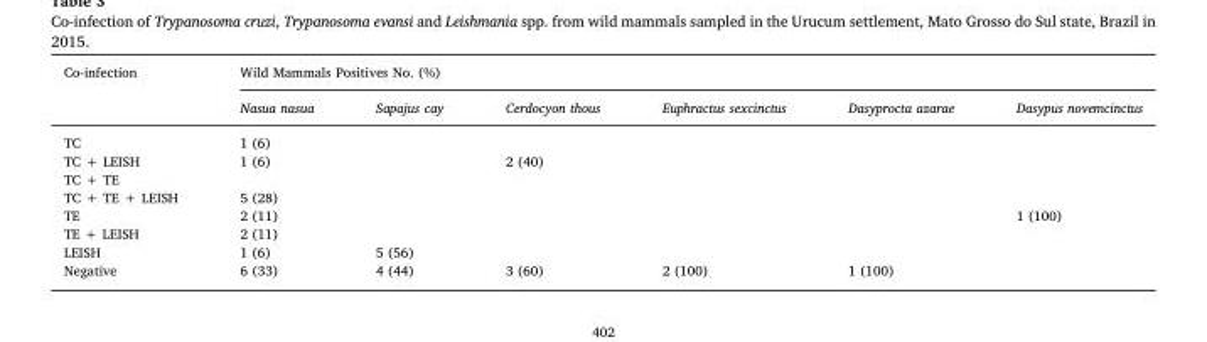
<table><thead><tr><td rowspan="2">Co-infection</td><td colspan="6">Wild Mammals Positives No. (%)</td></tr><tr><td>Nasua nasua</td><td>Sapajus cay</td><td>Cerdocyon thous</td><td>Euphractus sexcinctus</td><td>Dasyprocta azarae</td><td>Dasypus novemcinctus</td></tr></thead><tbody><tr><td>TC</td><td>1 (6)</td><td></td><td></td><td></td><td></td><td></td></tr><tr><td>TC + LEISH</td><td>1 (6)</td><td></td><td>2 (40)</td><td></td><td></td><td></td></tr><tr><td colspan="7">TC + TE</td></tr><tr><td>TC + TE + LEISH</td><td>5 (28)</td><td></td><td></td><td></td><td></td><td></td></tr><tr><td>TE</td><td>2 (11)</td><td></td><td></td><td></td><td></td><td>1 (100)</td></tr><tr><td>TE + LEISH</td><td>2 (11)</td><td></td><td></td><td></td><td></td><td></td></tr><tr><td>LEISH</td><td>1 (6)</td><td>5 (56)</td><td></td><td></td><td></td><td></td></tr><tr><td>Negative</td><td>6 (33)</td><td>4 (44)</td><td>3 (60)</td><td>2 (100)</td><td>1 (100)</td><td></td></tr></tbody></table>